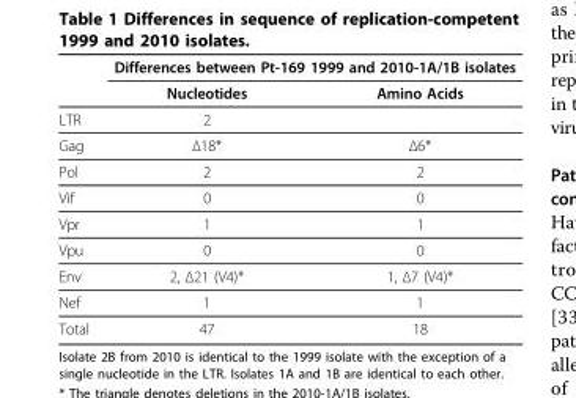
<table><thead><tr><td rowspan="2"></td><td colspan="2">Differences between Pt-169 1999 and 2010-1A/1B isolates</td></tr><tr><td>Nucleotides</td><td>Amino Acids</td></tr></thead><tbody><tr><td>LTR</td><td>2</td><td></td></tr><tr><td>Gag</td><td>Δ18*</td><td>Δ6*</td></tr><tr><td>Pol</td><td>2</td><td>2</td></tr><tr><td>Vif</td><td>0</td><td>0</td></tr><tr><td>Vpr</td><td>1</td><td>1</td></tr><tr><td>Vpu</td><td>0</td><td>0</td></tr><tr><td>Env</td><td>2, Δ21 (V4)*</td><td>1, Δ7 (V4)*</td></tr><tr><td>Nef</td><td>1</td><td>1</td></tr><tr><td>Total</td><td>47</td><td>18</td></tr></tbody></table>